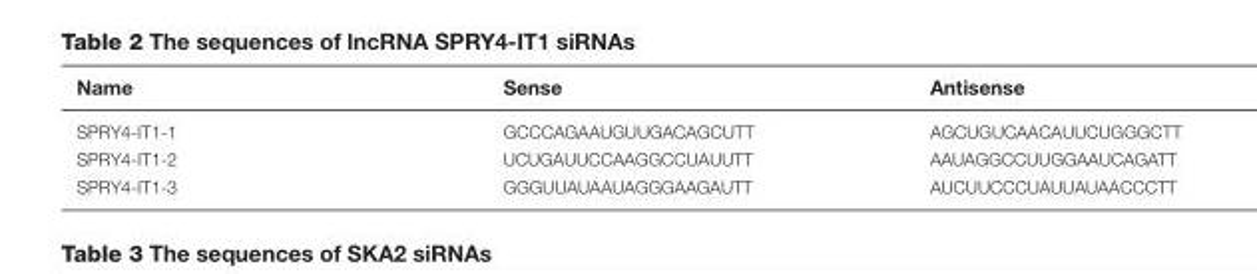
<table><thead><tr><td>Name</td><td>Sense</td><td>Antisense</td></tr></thead><tbody><tr><td>SPRY4-IT1-1</td><td>GCCCAGAAUGUUGACAGCUTT</td><td>AGCUGUCAACAUUCUGGGCTT</td></tr><tr><td>SPRY4-IT1-2</td><td>UCUGAUUCCAAGGCCUAUUTT</td><td>AAUAGGCCUUGGAAUCAGATT</td></tr><tr><td>SPRY4-IT1-3</td><td>GGGUUAUAAUAGGGAAGAUTT</td><td>AUCUUCCCUAUUAUAACCCTT</td></tr></tbody></table>